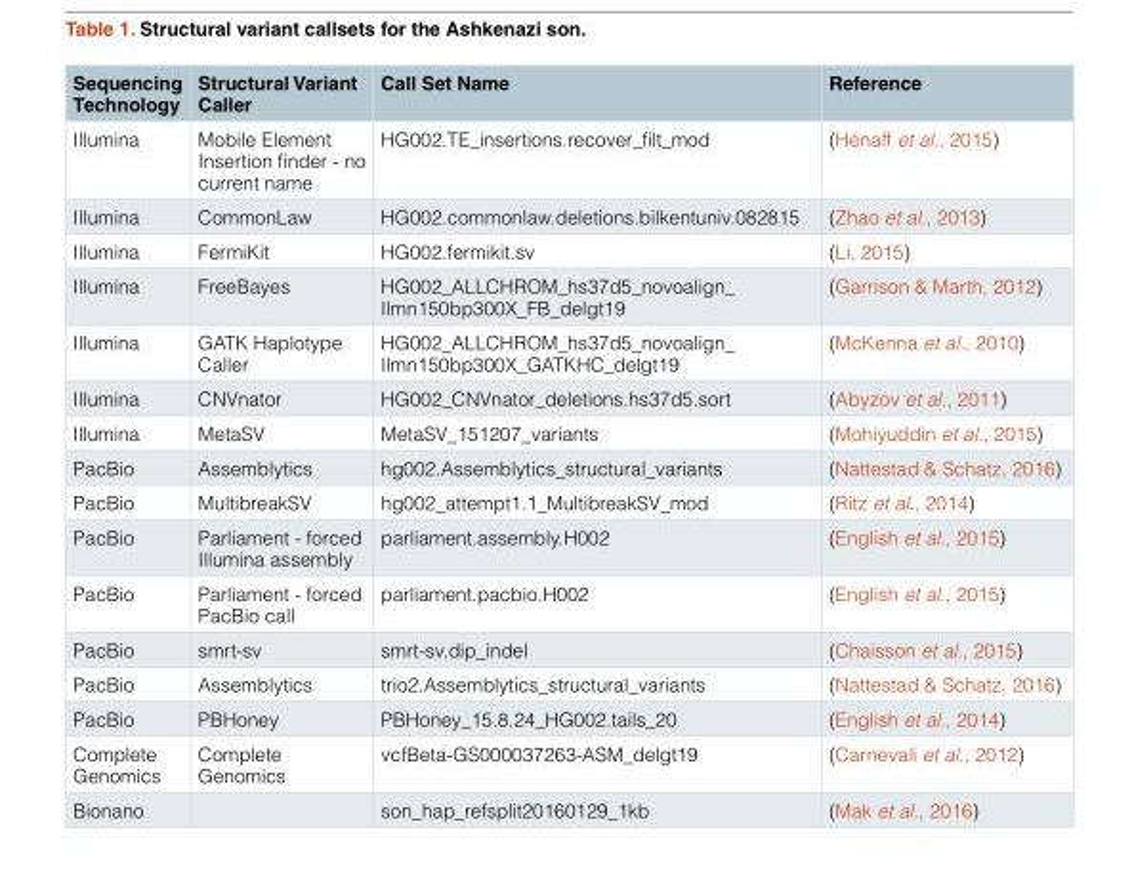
<table><thead><tr><td>Sequencing Technology</td><td>Structural Variant Caller</td><td>Call Set Name</td><td>Reference</td></tr></thead><tbody><tr><td>Illumina</td><td>Mobile Element Insertion finder - no current name</td><td>HG002.TE_insertions.recover_filt_mod</td><td>(Hénaff et al., 2015)</td></tr><tr><td>Illumina</td><td>CommonLaw</td><td>HG002.commonlaw.deletions.bilkentuniv.082815</td><td>(Zhao et al., 2013)</td></tr><tr><td>Illumina</td><td>FermiKit</td><td>HG002.fermikit.sv</td><td>(Li, 2015)</td></tr><tr><td>Illumina</td><td>FreeBayes</td><td>HG002_ALLCHROM_hs37d5_novoalign_ Ilmn150bp300X_FB_delgt19</td><td>(Garrison &amp; Marth, 2012)</td></tr><tr><td>Illumina</td><td>GATK Haplotype Caller</td><td>HG002_ALLCHROM_hs37d5_novoalign_ Ilmn150bp300X_GATKHC_delgt19</td><td>(McKenna et al., 2010)</td></tr><tr><td>Illumina</td><td>CNVnator</td><td>HG002_CNVnator_deletions.hs37d5.sort</td><td>(Abyzov et al., 2011)</td></tr><tr><td>Illumina</td><td>MetaSV</td><td>MetaSV_151207_variants</td><td>(Mohiyuddin et al., 2015)</td></tr><tr><td>PacBio</td><td>Assemblytics</td><td>hg002.Assemblytics_structural_variants</td><td>(Nattestad &amp; Schatz, 2016)</td></tr><tr><td>PacBio</td><td>MultibreakSV</td><td>hg002_attempt1.1_MultibreakSV_mod</td><td>(Ritz et al., 2014)</td></tr><tr><td>PacBio</td><td>Parliament - forced Illumina assembly</td><td>parliament.assembly.H002</td><td>(English et al., 2015)</td></tr><tr><td>PacBio</td><td>Parliament - forced PacBio call</td><td>parliament.pacbio.H002</td><td>(English et al., 2015)</td></tr><tr><td>PacBio</td><td>smrt-sv</td><td>smrt-sv.dip_indel</td><td>(Chaisson et al., 2015)</td></tr><tr><td>PacBio</td><td>Assemblytics</td><td>trio2.Assemblytics_structural_variants</td><td>(Nattestad &amp; Schatz, 2016)</td></tr><tr><td>PacBio</td><td>PBHoney</td><td>PBHoney_15.8.24_HG002.tails_20</td><td>(English et al., 2014)</td></tr><tr><td>Complete Genomics</td><td>Complete Genomics</td><td>vcfBeta-GS000037263-ASM_delgt19</td><td>(Carnevali et al., 2012)</td></tr><tr><td>Bionano</td><td></td><td>son_hap_refsplit20160129_1kb</td><td>(Mak et al., 2016)</td></tr></tbody></table>